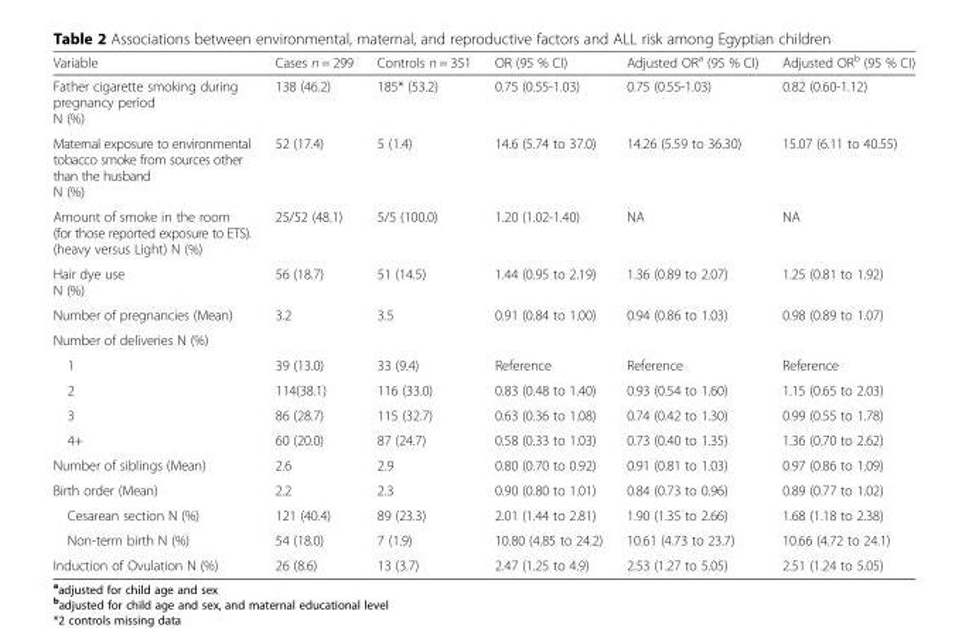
<table><thead><tr><td>Variable</td><td>Cases n = 299</td><td>Controls n = 351</td><td>OR (95 % CI)</td><td>Adjusted OR<sup>a</sup> (95 % CI)</td><td>Adjusted OR<sup>b</sup> (95 % CI)</td></tr></thead><tbody><tr><td>Father cigarette smoking during pregnancy period N (%)</td><td>138 (46.2)</td><td>185* (53.2)</td><td>0.75 (0.55-1.03)</td><td>0.75 (0.55-1.03)</td><td>0.82 (0.60-1.12)</td></tr><tr><td>Maternal exposure to environmental tobacco smoke from sources other than the husband N (%)</td><td>52 (17.4)</td><td>5 (1.4)</td><td>14.6 (5.74 to 37.0)</td><td>14.26 (5.59 to 36.30)</td><td>15.07 (6.11 to 40.55)</td></tr><tr><td>Amount of smoke in the room (for those reported exposure to ETS). (heavy versus Light) N (%)</td><td>25/52 (48.1)</td><td>5/5 (100.0)</td><td>1.20 (1.02-1.40)</td><td>NA</td><td>NA</td></tr><tr><td>Hair dye use N (%)</td><td>56 (18.7)</td><td>51 (14.5)</td><td>1.44 (0.95 to 2.19)</td><td>1.36 (0.89 to 2.07)</td><td>1.25 (0.81 to 1.92)</td></tr><tr><td>Number of pregnancies (Mean)</td><td>3.2</td><td>3.5</td><td>0.91 (0.84 to 1.00)</td><td>0.94 (0.86 to 1.03)</td><td>0.98 (0.89 to 1.07)</td></tr><tr><td colspan="6">Number of deliveries N (%)</td></tr><tr><td>1</td><td>39 (13.0)</td><td>33 (9.4)</td><td>Reference</td><td>Reference</td><td>Reference</td></tr><tr><td>2</td><td>114(38.1)</td><td>116 (33.0)</td><td>0.83 (0.48 to 1.40)</td><td>0.93 (0.54 to 1.60)</td><td>1.15 (0.65 to 2.03)</td></tr><tr><td>3</td><td>86 (28.7)</td><td>115 (32.7)</td><td>0.63 (0.36 to 1.08)</td><td>0.74 (0.42 to 1.30)</td><td>0.99 (0.55 to 1.78)</td></tr><tr><td>4+</td><td>60 (20.0)</td><td>87 (24.7)</td><td>0.58 (0.33 to 1.03)</td><td>0.73 (0.40 to 1.35)</td><td>1.36 (0.70 to 2.62)</td></tr><tr><td>Number of siblings (Mean)</td><td>2.6</td><td>2.9</td><td>0.80 (0.70 to 0.92)</td><td>0.91 (0.81 to 1.03)</td><td>0.97 (0.86 to 1.09)</td></tr><tr><td>Birth order (Mean)</td><td>2.2</td><td>2.3</td><td>0.90 (0.80 to 1.01)</td><td>0.84 (0.73 to 0.96)</td><td>0.89 (0.77 to 1.02)</td></tr><tr><td>Cesarean section N (%)</td><td>121 (40.4)</td><td>89 (23.3)</td><td>2.01 (1.44 to 2.81)</td><td>1.90 (1.35 to 2.66)</td><td>1.68 (1.18 to 2.38)</td></tr><tr><td>Non-term birth N (%)</td><td>54 (18.0)</td><td>7 (1.9)</td><td>10.80 (4.85 to 24.2)</td><td>10.61 (4.73 to 23.7)</td><td>10.66 (4.72 to 24.1)</td></tr><tr><td>Induction of Ovulation N (%)</td><td>26 (8.6)</td><td>13 (3.7)</td><td>2.47 (1.25 to 4.9)</td><td>2.53 (1.27 to 5.05)</td><td>2.51 (1.24 to 5.05)</td></tr></tbody></table>